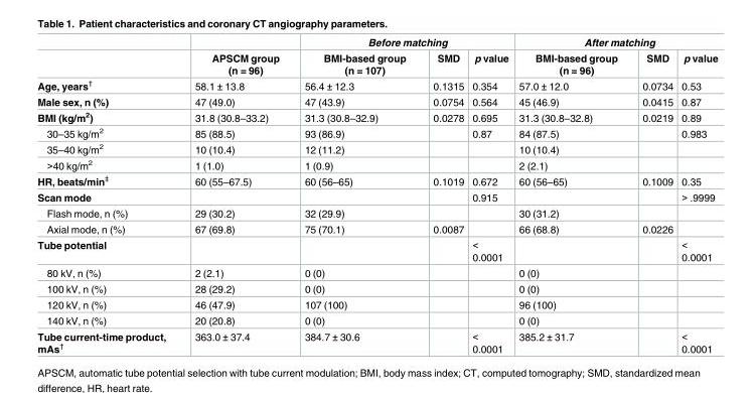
<table><thead><tr><td rowspan="2"></td><td rowspan="2">APSCM group (n = 96)</td><td colspan="3">Before matching</td><td colspan="3">After matching</td></tr><tr><td>BMI-based group (n = 107)</td><td>SMD</td><td>p value</td><td>BMI-based group (n = 96)</td><td>SMD</td><td>p value</td></tr></thead><tbody><tr><td>Age, years<sup>†</sup></td><td>58.1 ± 13.8</td><td>56.4 ± 12.3</td><td>0.1315</td><td>0.354</td><td>57.0 ± 12.0</td><td>0.0734</td><td>0.53</td></tr><tr><td>Male sex, n (%)</td><td>47 (49.0)</td><td>47 (43.9)</td><td>0.0754</td><td>0.564</td><td>45 (46.9)</td><td>0.0415</td><td>0.87</td></tr><tr><td>BMI (kg/m<sup>2</sup>)</td><td>31.8 (30.8–33.2)</td><td>31.3 (30.8–32.9)</td><td>0.0278</td><td>0.695</td><td>31.3 (30.8–32.8)</td><td>0.0219</td><td>0.89</td></tr><tr><td>30–35 kg/m<sup>2</sup></td><td>85 (88.5)</td><td>93 (86.9)</td><td></td><td>0.87</td><td>84 (87.5)</td><td></td><td>0.983</td></tr><tr><td>35–40 kg/m<sup>2</sup></td><td>10 (10.4)</td><td>12 (11.2)</td><td></td><td></td><td>10 (10.4)</td><td></td><td></td></tr><tr><td>&gt;40 kg/m<sup>2</sup></td><td>1 (1.0)</td><td>1 (0.9)</td><td></td><td></td><td>2 (2.1)</td><td></td><td></td></tr><tr><td>HR, beats/min<sup>‡</sup></td><td>60 (55–67.5)</td><td>60 (56–65)</td><td>0.1019</td><td>0.672</td><td>60 (56–65)</td><td>0.1009</td><td>0.35</td></tr><tr><td>Scan mode</td><td></td><td></td><td></td><td>0.915</td><td></td><td></td><td>&gt; .9999</td></tr><tr><td>Flash mode, n (%)</td><td>29 (30.2)</td><td>32 (29.9)</td><td></td><td></td><td>30 (31.2)</td><td></td><td></td></tr><tr><td>Axial mode, n (%)</td><td>67 (69.8)</td><td>75 (70.1)</td><td>0.0087</td><td></td><td>66 (68.8)</td><td>0.0226</td><td></td></tr><tr><td>Tube potential</td><td></td><td></td><td></td><td>&lt; 0.0001</td><td></td><td></td><td>&lt; 0.0001</td></tr><tr><td>80 kV, n (%)</td><td>2 (2.1)</td><td>0 (0)</td><td></td><td></td><td>0 (0)</td><td></td><td></td></tr><tr><td>100 kV, n (%)</td><td>28 (29.2)</td><td>0 (0)</td><td></td><td></td><td>0 (0)</td><td></td><td></td></tr><tr><td>120 kV, n (%)</td><td>46 (47.9)</td><td>107 (100)</td><td></td><td></td><td>96 (100)</td><td></td><td></td></tr><tr><td>140 kV, n (%)</td><td>20 (20.8)</td><td>0 (0)</td><td></td><td></td><td>0 (0)</td><td></td><td></td></tr><tr><td>Tube current-time product, mAs<sup>†</sup></td><td>363.0 ± 37.4</td><td>384.7 ± 30.6</td><td></td><td>&lt; 0.0001</td><td>385.2 ± 31.7</td><td></td><td>&lt; 0.0001</td></tr></tbody></table>